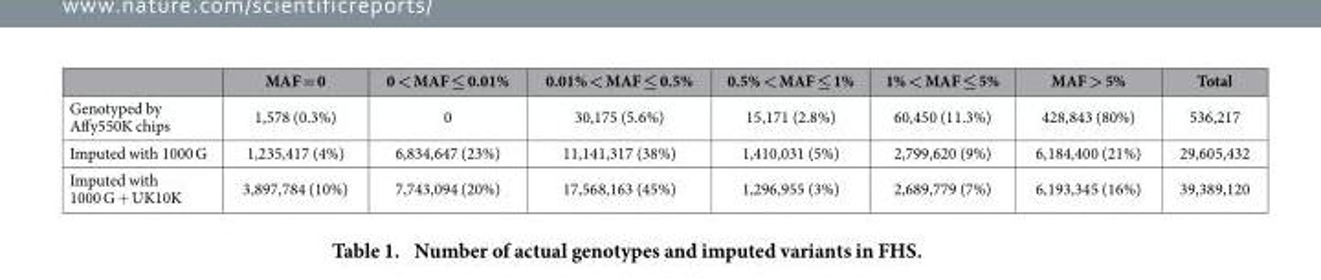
<table><thead><tr><td></td><td>MAF = 0</td><td>0 &lt; MAF ≤ 0.01%</td><td>0.01% &lt; MAF ≤ 0.5%</td><td>0.5% &lt; MAF ≤ 1%</td><td>1% &lt; MAF ≤ 5%</td><td>MAF &gt; 5%</td><td>Total</td></tr></thead><tbody><tr><td>Genotyped by Affy550K chips</td><td>1,578 (0.3%)</td><td>0</td><td>30,175 (5.6%)</td><td>15,171 (2.8%)</td><td>60,450 (11.3%)</td><td>428,843 (80%)</td><td>536,217</td></tr><tr><td>Imputed with 1000 G</td><td>1,235,417 (4%)</td><td>6,834,647 (23%)</td><td>11,141,317 (38%)</td><td>1,410,031 (5%)</td><td>2,799,620 (9%)</td><td>6,184,400 (21%)</td><td>29,605,432</td></tr><tr><td>Imputed with 1000 G + UK10K</td><td>3,897,784 (10%)</td><td>7,743,094 (20%)</td><td>17,568,163 (45%)</td><td>1,296,955 (3%)</td><td>2,689,779 (7%)</td><td>6,193,345 (16%)</td><td>39,389,120</td></tr></tbody></table>